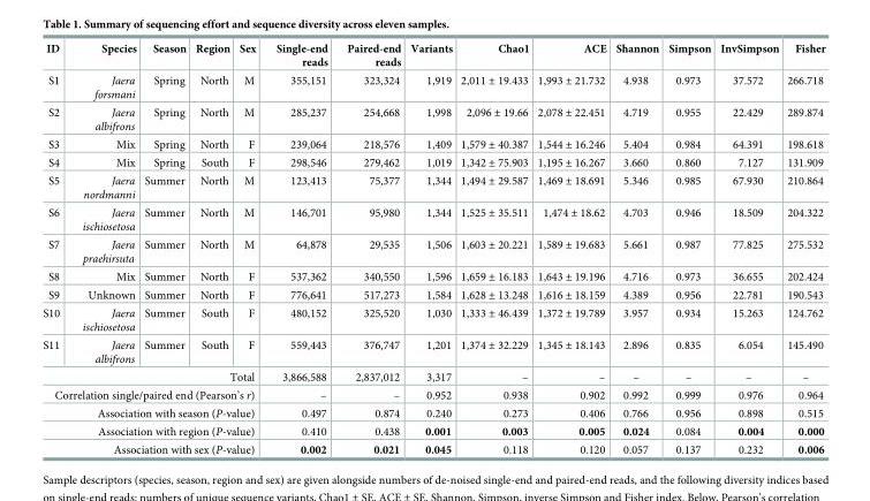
<table><thead><tr><td>ID</td><td>Species</td><td>Season</td><td>Region</td><td>Sex</td><td>Single-end reads</td><td>Paired-end reads</td><td>Variants</td><td>Chao1</td><td>ACE</td><td>Shannon</td><td>Simpson</td><td>InvSimpson</td><td>Fisher</td></tr></thead><tbody><tr><td>S1</td><td>Jaera forsmani</td><td>Spring</td><td>North</td><td>M</td><td>355,151</td><td>323,324</td><td>1,919</td><td>2,011 ± 19.433</td><td>1,993 ± 21.732</td><td>4.938</td><td>0.973</td><td>37.572</td><td>266.718</td></tr><tr><td>S2</td><td>Jaera albifrons</td><td>Spring</td><td>North</td><td>M</td><td>285,237</td><td>254,668</td><td>1,998</td><td>2,096 ± 19.66</td><td>2,078 ± 22.451</td><td>4.719</td><td>0.955</td><td>22.429</td><td>289.874</td></tr><tr><td>S3</td><td>Mix</td><td>Spring</td><td>North</td><td>F</td><td>239,064</td><td>218,576</td><td>1,409</td><td>1,579 ± 40.387</td><td>1,544 ± 16.246</td><td>5.404</td><td>0.984</td><td>64.391</td><td>198.618</td></tr><tr><td>S4</td><td>Mix</td><td>Spring</td><td>South</td><td>F</td><td>298,546</td><td>279,462</td><td>1,019</td><td>1,342 ± 75.903</td><td>1,195 ± 16.267</td><td>3.660</td><td>0.860</td><td>7.127</td><td>131.909</td></tr><tr><td>S5</td><td>Jaera nordmanni</td><td>Summer</td><td>North</td><td>M</td><td>123,413</td><td>75,377</td><td>1,344</td><td>1,494 ± 29.587</td><td>1,469 ± 18.691</td><td>5.346</td><td>0.985</td><td>67.930</td><td>210.864</td></tr><tr><td>S6</td><td>Jaera ischiosetosa</td><td>Summer</td><td>North</td><td>M</td><td>146,701</td><td>95,980</td><td>1,344</td><td>1,525 ± 35.511</td><td>1,474 ± 18.62</td><td>4.703</td><td>0.946</td><td>18.509</td><td>204.322</td></tr><tr><td>S7</td><td>Jaera praehirsuta</td><td>Summer</td><td>North</td><td>M</td><td>64,878</td><td>29,535</td><td>1,506</td><td>1,603 ± 20.221</td><td>1,589 ± 19.683</td><td>5.661</td><td>0.987</td><td>77.825</td><td>275.532</td></tr><tr><td>S8</td><td>Mix</td><td>Summer</td><td>North</td><td>F</td><td>537,362</td><td>340,550</td><td>1,596</td><td>1,659 ± 16.183</td><td>1,643 ± 19.196</td><td>4.716</td><td>0.973</td><td>36.655</td><td>202.424</td></tr><tr><td>S9</td><td>Unknown</td><td>Summer</td><td>North</td><td>F</td><td>776,641</td><td>517,273</td><td>1,584</td><td>1,628 ± 13.248</td><td>1,616 ± 18.159</td><td>4.389</td><td>0.956</td><td>22.781</td><td>190.543</td></tr><tr><td>S10</td><td>Jaera ischiosetosa</td><td>Summer</td><td>South</td><td>F</td><td>480,152</td><td>325,520</td><td>1,030</td><td>1,333 ± 46.439</td><td>1,372 ± 19.789</td><td>3.957</td><td>0.934</td><td>15.263</td><td>124.762</td></tr><tr><td>S11</td><td>Jaera albifrons</td><td>Summer</td><td>South</td><td>F</td><td>559,443</td><td>376,747</td><td>1,201</td><td>1,374 ± 32.229</td><td>1,345 ± 18.143</td><td>2.896</td><td>0.835</td><td>6.054</td><td>145.490</td></tr><tr><td colspan="5">Total</td><td>3,866,588</td><td>2,837,012</td><td>3,317</td><td>–</td><td>–</td><td>–</td><td>–</td><td>–</td><td>–</td></tr><tr><td colspan="5">Correlation single/paired end (Pearson’s r)</td><td>–</td><td>–</td><td>0.952</td><td>0.938</td><td>0.902</td><td>0.992</td><td>0.999</td><td>0.976</td><td>0.964</td></tr><tr><td colspan="5">Association with season (P-value)</td><td>0.497</td><td>0.874</td><td>0.240</td><td>0.273</td><td>0.406</td><td>0.766</td><td>0.956</td><td>0.898</td><td>0.515</td></tr><tr><td colspan="5">Association with region (P-value)</td><td>0.410</td><td>0.438</td><td>0.001</td><td>0.003</td><td>0.005</td><td>0.024</td><td>0.084</td><td>0.004</td><td>0.000</td></tr><tr><td colspan="5">Association with sex (P-value)</td><td>0.002</td><td>0.021</td><td>0.045</td><td>0.118</td><td>0.120</td><td>0.057</td><td>0.137</td><td>0.232</td><td>0.006</td></tr></tbody></table>